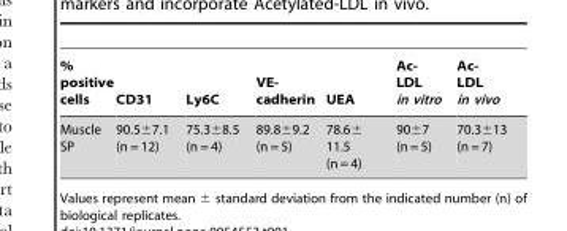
<table><thead><tr><td>% positive cells</td><td>CD31</td><td>Ly6C</td><td>VE- cadherin</td><td>UEA</td><td>Ac- LDL in vitro</td><td>Ac- LDL in vivo</td></tr></thead><tbody><tr><td>Muscle SP</td><td>90.5±7.1 (n = 12)</td><td>75.3±8.5 (n = 4)</td><td>89.8±9.2 (n = 5)</td><td>78.6± 11.5 (n = 4)</td><td>90±7 (n = 5)</td><td>70.3±13 (n = 7)</td></tr></tbody></table>